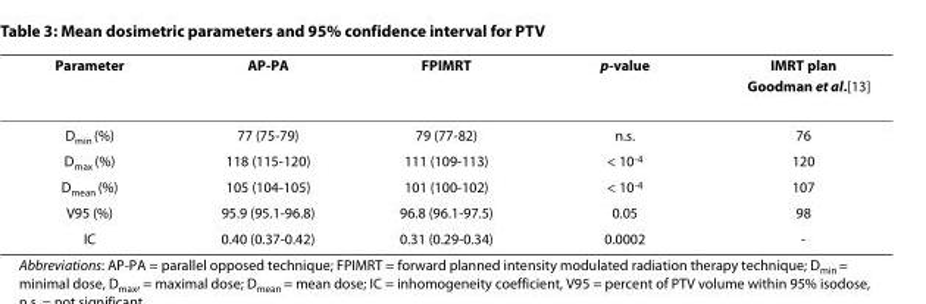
<table><thead><tr><td>Parameter</td><td>AP-PA</td><td>FPIMRT</td><td>p-value</td><td>IMRT plan Goodman et al.[13]</td></tr></thead><tbody><tr><td>D<sub>min</sub> (%)</td><td>77 (75-79)</td><td>79 (77-82)</td><td>n.s.</td><td>76</td></tr><tr><td>D<sub>max</sub> (%)</td><td>118 (115-120)</td><td>111 (109-113)</td><td>&lt; 10<sup>-4</sup></td><td>120</td></tr><tr><td>D<sub>mean</sub> (%)</td><td>105 (104-105)</td><td>101 (100-102)</td><td>&lt; 10<sup>-4</sup></td><td>107</td></tr><tr><td>V95 (%)</td><td>95.9 (95.1-96.8)</td><td>96.8 (96.1-97.5)</td><td>0.05</td><td>98</td></tr><tr><td>IC</td><td>0.40 (0.37-0.42)</td><td>0.31 (0.29-0.34)</td><td>0.0002</td><td>-</td></tr></tbody></table>